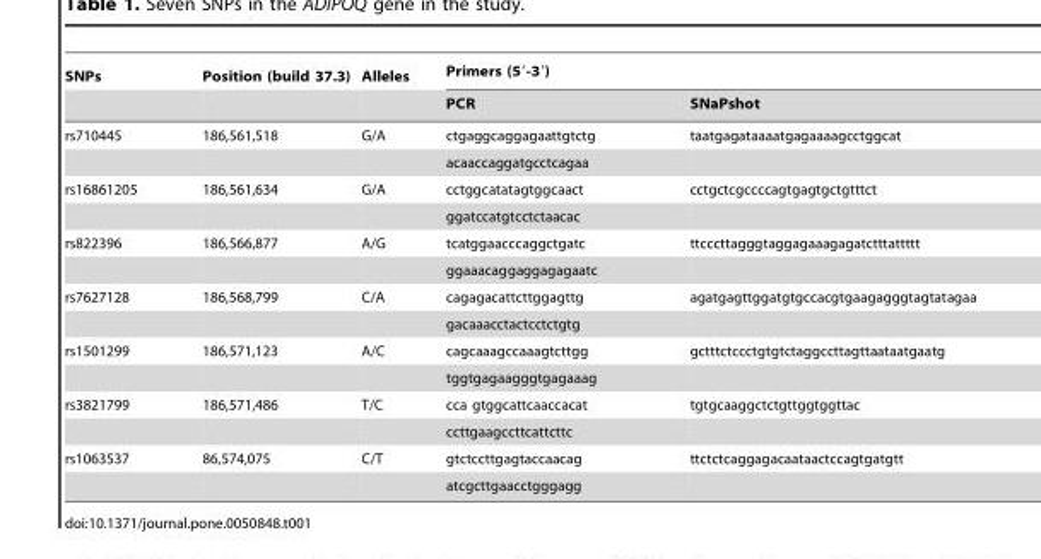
<table><thead><tr><td rowspan="2">SNPs</td><td rowspan="2">Position (build 37.3)</td><td rowspan="2">Alleles</td><td colspan="2">Primers (5′-3′)</td></tr><tr><td>PCR</td><td>SNaPshot</td></tr></thead><tbody><tr><td rowspan="2">rs710445</td><td>186,561,518</td><td>G/A</td><td>ctgaggcaggagaattgtctg</td><td>taatgagataaaatgagaaaagcctggcat</td></tr><tr><td></td><td></td><td>acaaccaggatgcctcagaa</td><td></td></tr><tr><td rowspan="2">rs16861205</td><td>186,561,634</td><td>G/A</td><td>cctggcatatagtggcaact</td><td>cctgctcgccccagtgagtgctgtttct</td></tr><tr><td></td><td></td><td>ggatccatgtcctctaacac</td><td></td></tr><tr><td rowspan="2">rs822396</td><td>186,566,877</td><td>A/G</td><td>tcatggaacccaggctgatc</td><td>ttcccttagggtaggagaaagagatctttattttt</td></tr><tr><td></td><td></td><td>ggaaacaggaggagagaatc</td><td></td></tr><tr><td rowspan="2">rs7627128</td><td>186,568,799</td><td>C/A</td><td>cagagacattcttggagttg</td><td>agatgagttggatgtgccacgtgaagagggtagtatagaa</td></tr><tr><td></td><td></td><td>gacaaacctactcctctgtg</td><td></td></tr><tr><td rowspan="2">rs1501299</td><td>186,571,123</td><td>A/C</td><td>cagcaaagccaaagtcttgg</td><td>gctttctccctgtgtctaggccttagttaataatgaatg</td></tr><tr><td></td><td></td><td>tggtgagaagggtgagaaag</td><td></td></tr><tr><td rowspan="2">rs3821799</td><td>186,571,486</td><td>T/C</td><td>cca gtggcattcaaccacat</td><td>tgtgcaaggctctgttggtggttac</td></tr><tr><td></td><td></td><td>ccttgaagccttcattcttc</td><td></td></tr><tr><td rowspan="2">rs1063537</td><td>86,574,075</td><td>C/T</td><td>gtctccttgagtaccaacag</td><td>ttctctcaggagacaataactccagtgatgtt</td></tr><tr><td></td><td></td><td>atcgcttgaacctgggagg</td><td></td></tr></tbody></table>